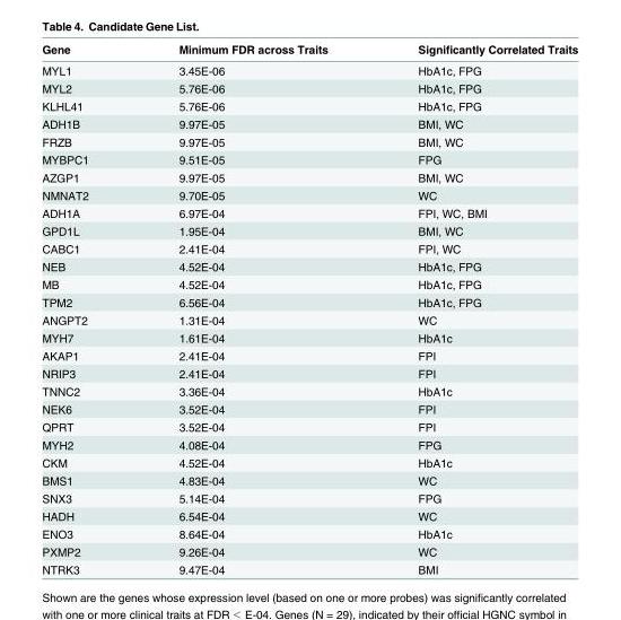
<table><thead><tr><td>Gene</td><td>Minimum FDR across Traits</td><td>Significantly Correlated Traits</td></tr></thead><tbody><tr><td>MYL1</td><td>3.45E-06</td><td>HbA1c, FPG</td></tr><tr><td>MYL2</td><td>5.76E-06</td><td>HbA1c, FPG</td></tr><tr><td>KLHL41</td><td>5.76E-06</td><td>HbA1c, FPG</td></tr><tr><td>ADH1B</td><td>9.97E-05</td><td>BMI, WC</td></tr><tr><td>FRZB</td><td>9.97E-05</td><td>BMI, WC</td></tr><tr><td>MYBPC1</td><td>9.51E-05</td><td>FPG</td></tr><tr><td>AZGP1</td><td>9.97E-05</td><td>BMI, WC</td></tr><tr><td>NMNAT2</td><td>9.70E-05</td><td>WC</td></tr><tr><td>ADH1A</td><td>6.97E-04</td><td>FPI, WC, BMI</td></tr><tr><td>GPD1L</td><td>1.95E-04</td><td>BMI, WC</td></tr><tr><td>CABC1</td><td>2.41E-04</td><td>FPI, WC</td></tr><tr><td>NEB</td><td>4.52E-04</td><td>HbA1c, FPG</td></tr><tr><td>MB</td><td>4.52E-04</td><td>HbA1c, FPG</td></tr><tr><td>TPM2</td><td>6.56E-04</td><td>HbA1c, FPG</td></tr><tr><td>ANGPT2</td><td>1.31E-04</td><td>WC</td></tr><tr><td>MYH7</td><td>1.61E-04</td><td>HbA1c</td></tr><tr><td>AKAP1</td><td>2.41E-04</td><td>FPI</td></tr><tr><td>NRIP3</td><td>2.41E-04</td><td>FPI</td></tr><tr><td>TNNC2</td><td>3.36E-04</td><td>HbA1c</td></tr><tr><td>NEK6</td><td>3.52E-04</td><td>FPI</td></tr><tr><td>QPRT</td><td>3.52E-04</td><td>FPI</td></tr><tr><td>MYH2</td><td>4.08E-04</td><td>FPG</td></tr><tr><td>CKM</td><td>4.52E-04</td><td>HbA1c</td></tr><tr><td>BMS1</td><td>4.83E-04</td><td>WC</td></tr><tr><td>SNX3</td><td>5.14E-04</td><td>FPG</td></tr><tr><td>HADH</td><td>6.54E-04</td><td>WC</td></tr><tr><td>ENO3</td><td>8.64E-04</td><td>HbA1c</td></tr><tr><td>PXMP2</td><td>9.26E-04</td><td>WC</td></tr><tr><td>NTRK3</td><td>9.47E-04</td><td>BMI</td></tr></tbody></table>